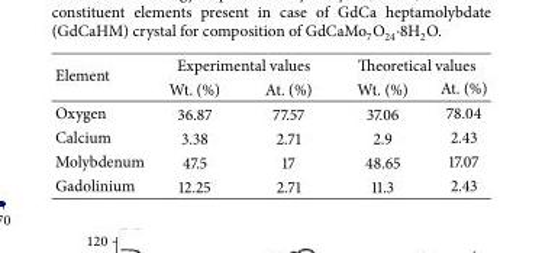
<table><thead><tr><td rowspan="2">Element</td><td colspan="2">Experimental values</td><td colspan="2">Theoretical values</td></tr><tr><td>Wt. (%)</td><td>At. (%)</td><td>Wt. (%)</td><td>At. (%)</td></tr></thead><tbody><tr><td>Oxygen</td><td>36.87</td><td>77.57</td><td>37.06</td><td>78.04</td></tr><tr><td>Calcium</td><td>3.38</td><td>2.71</td><td>2.9</td><td>2.43</td></tr><tr><td>Molybdenum</td><td>47.5</td><td>17</td><td>48.65</td><td>17.07</td></tr><tr><td>Gadolinium</td><td>12.25</td><td>2.71</td><td>11.3</td><td>2.43</td></tr></tbody></table>